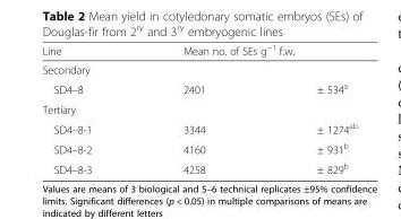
<table><thead><tr><td>Line</td><td colspan="2">Mean no. of SEs g<sup>−1</sup> f.w.</td></tr><tr><td colspan="3">Secondary</td></tr><tr><td>SD4–8</td><td>2401</td><td>± 534<sup>a</sup></td></tr></thead><tbody><tr><td colspan="3">Tertiary</td></tr><tr><td>SD4–8-1</td><td>3344</td><td>± 1274<sup>ab</sup></td></tr><tr><td>SD4–8-2</td><td>4160</td><td>± 931<sup>b</sup></td></tr><tr><td>SD4–8-3</td><td>4258</td><td>± 829<sup>b</sup></td></tr></tbody></table>